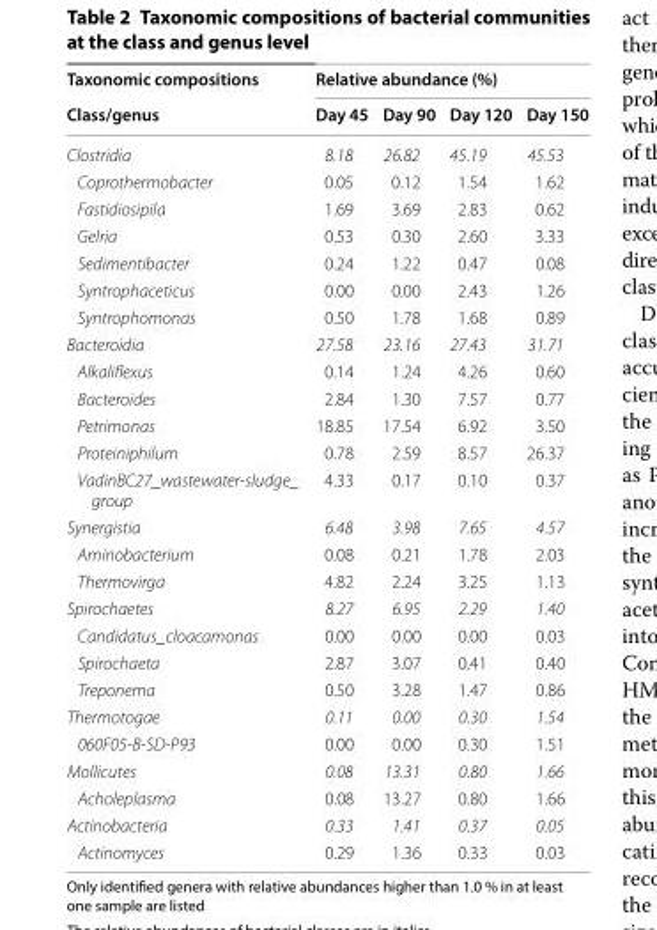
<table><thead><tr><td rowspan="2">Taxonomic compositions Class/genus</td><td colspan="4">Relative abundance (%)</td></tr><tr><td>Day 45</td><td>Day 90</td><td>Day 120</td><td>Day 150</td></tr></thead><tbody><tr><td>Clostridia</td><td>8.18</td><td>26.82</td><td>45.19</td><td>45.53</td></tr><tr><td>Coprothermobacter</td><td>0.05</td><td>0.12</td><td>1.54</td><td>1.62</td></tr><tr><td>Fastidiosipila</td><td>1.69</td><td>3.69</td><td>2.83</td><td>0.62</td></tr><tr><td>Gelria</td><td>0.53</td><td>0.30</td><td>2.60</td><td>3.33</td></tr><tr><td>Sedimentibacter</td><td>0.24</td><td>1.22</td><td>0.47</td><td>0.08</td></tr><tr><td>Syntrophaceticus</td><td>0.00</td><td>0.00</td><td>2.43</td><td>1.26</td></tr><tr><td>Syntrophomonas</td><td>0.50</td><td>1.78</td><td>1.68</td><td>0.89</td></tr><tr><td>Bacteroidia</td><td>27.58</td><td>23.16</td><td>27.43</td><td>31.71</td></tr><tr><td>Alkaliflexus</td><td>0.14</td><td>1.24</td><td>4.26</td><td>0.60</td></tr><tr><td>Bacteroides</td><td>2.84</td><td>1.30</td><td>7.57</td><td>0.77</td></tr><tr><td>Petrimonas</td><td>18.85</td><td>17.54</td><td>6.92</td><td>3.50</td></tr><tr><td>Proteiniphilum</td><td>0.78</td><td>2.59</td><td>8.57</td><td>26.37</td></tr><tr><td>VadinBC27_wastewater-sludge_ group</td><td>4.33</td><td>0.17</td><td>0.10</td><td>0.37</td></tr><tr><td>Synergistia</td><td>6.48</td><td>3.98</td><td>7.65</td><td>4.57</td></tr><tr><td>Aminobacterium</td><td>0.08</td><td>0.21</td><td>1.78</td><td>2.03</td></tr><tr><td>Thermovirga</td><td>4.82</td><td>2.24</td><td>3.25</td><td>1.13</td></tr><tr><td>Spirochaetes</td><td>8.27</td><td>6.95</td><td>2.29</td><td>1.40</td></tr><tr><td>Candidatus_cloacamonas</td><td>0.00</td><td>0.00</td><td>0.00</td><td>0.03</td></tr><tr><td>Spirochaeta</td><td>2.87</td><td>3.07</td><td>0.41</td><td>0.40</td></tr><tr><td>Treponema</td><td>0.50</td><td>3.28</td><td>1.47</td><td>0.86</td></tr><tr><td>Thermotogae</td><td>0.11</td><td>0.00</td><td>0.30</td><td>1.54</td></tr><tr><td>060F05-B-SD-P93</td><td>0.00</td><td>0.00</td><td>0.30</td><td>1.51</td></tr><tr><td>Mollicutes</td><td>0.08</td><td>13.31</td><td>0.80</td><td>1.66</td></tr><tr><td>Acholeplasma</td><td>0.08</td><td>13.27</td><td>0.80</td><td>1.66</td></tr><tr><td>Actinobacteria</td><td>0.33</td><td>1.41</td><td>0.37</td><td>0.05</td></tr><tr><td>Actinomyces</td><td>0.29</td><td>1.36</td><td>0.33</td><td>0.03</td></tr></tbody></table>